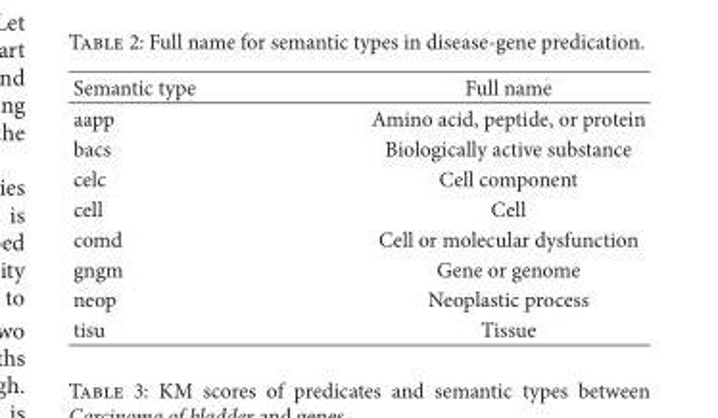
<table><thead><tr><td>Semantic type</td><td>Full name</td></tr></thead><tbody><tr><td>aapp</td><td>Amino acid, peptide, or protein</td></tr><tr><td>bacs</td><td>Biologically active substance</td></tr><tr><td>celc</td><td>Cell component</td></tr><tr><td>cell</td><td>Cell</td></tr><tr><td>comd</td><td>Cell or molecular dysfunction</td></tr><tr><td>gngm</td><td>Gene or genome</td></tr><tr><td>neop</td><td>Neoplastic process</td></tr><tr><td>tisu</td><td>Tissue</td></tr></tbody></table>